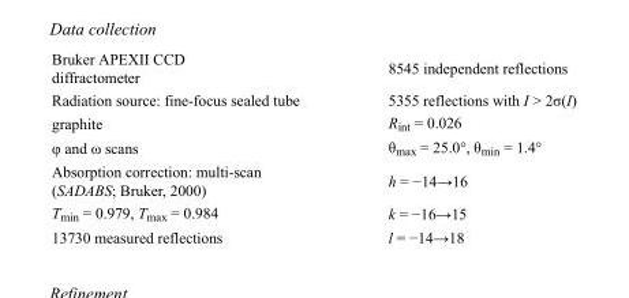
<table><tbody><tr><td>Bruker APEXII CCD diffractometer</td><td>8545 independent reflections</td></tr><tr><td>Radiation source: fine-focus sealed tube</td><td>5355 reflections with I &gt; 2σ(I)</td></tr><tr><td>graphite</td><td>R<sub>int</sub> = 0.026</td></tr><tr><td>φ and ω scans</td><td>θ<sub>max</sub> = 25.0°, θ<sub>min</sub> = 1.4°</td></tr><tr><td>Absorption correction: multi-scan (SADABS; Bruker, 2000)</td><td>h = −14→16</td></tr><tr><td>T<sub>min</sub> = 0.979, T<sub>max</sub> = 0.984</td><td>k = −16→15</td></tr><tr><td>13730 measured reflections</td><td>l = −14→18</td></tr></tbody></table>